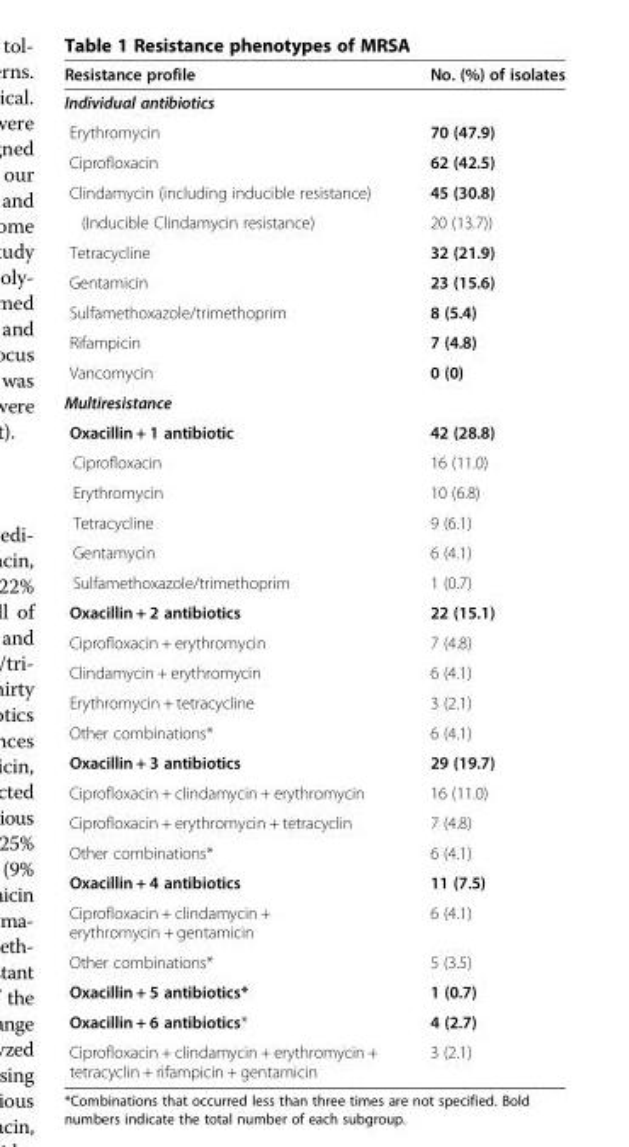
<table><thead><tr><td>Resistance profile</td><td>No. (%) of isolates</td></tr></thead><tbody><tr><td colspan="2">Individual antibiotics</td></tr><tr><td>Erythromycin</td><td>70 (47.9)</td></tr><tr><td>Ciprofloxacin</td><td>62 (42.5)</td></tr><tr><td>Clindamycin (including inducible resistance)</td><td>45 (30.8)</td></tr><tr><td>(Inducible Clindamycin resistance)</td><td>20 (13.7))</td></tr><tr><td>Tetracycline</td><td>32 (21.9)</td></tr><tr><td>Gentamicin</td><td>23 (15.6)</td></tr><tr><td>Sulfamethoxazole/trimethoprim</td><td>8 (5.4)</td></tr><tr><td>Rifampicin</td><td>7 (4.8)</td></tr><tr><td>Vancomycin</td><td>0 (0)</td></tr><tr><td colspan="2">Multiresistance</td></tr><tr><td>Oxacillin + 1 antibiotic</td><td>42 (28.8)</td></tr><tr><td>Ciprofloxacin</td><td>16 (11.0)</td></tr><tr><td>Erythromycin</td><td>10 (6.8)</td></tr><tr><td>Tetracycline</td><td>9 (6.1)</td></tr><tr><td>Gentamycin</td><td>6 (4.1)</td></tr><tr><td>Sulfamethoxazole/trimethoprim</td><td>1 (0.7)</td></tr><tr><td>Oxacillin + 2 antibiotics</td><td>22 (15.1)</td></tr><tr><td>Ciprofloxacin + erythromycin</td><td>7 (4.8)</td></tr><tr><td>Clindamycin + erythromycin</td><td>6 (4.1)</td></tr><tr><td>Erythromycin + tetracycline</td><td>3 (2.1)</td></tr><tr><td>Other combinations*</td><td>6 (4.1)</td></tr><tr><td>Oxacillin + 3 antibiotics</td><td>29 (19.7)</td></tr><tr><td>Ciprofloxacin + clindamycin + erythromycin</td><td>16 (11.0)</td></tr><tr><td>Ciprofloxacin + erythromycin + tetracyclin</td><td>7 (4.8)</td></tr><tr><td>Other combinations*</td><td>6 (4.1)</td></tr><tr><td>Oxacillin + 4 antibiotics</td><td>11 (7.5)</td></tr><tr><td>Ciprofloxacin + clindamycin + erythromycin + gentamicin</td><td>6 (4.1)</td></tr><tr><td>Other combinations*</td><td>5 (3.5)</td></tr><tr><td>Oxacillin + 5 antibiotics*</td><td>1 (0.7)</td></tr><tr><td>Oxacillin + 6 antibiotics*</td><td>4 (2.7)</td></tr><tr><td>Ciprofloxacin + clindamycin + erythromycin + tetracyclin + rifampicin + gentamicin</td><td>3 (2.1)</td></tr></tbody></table>